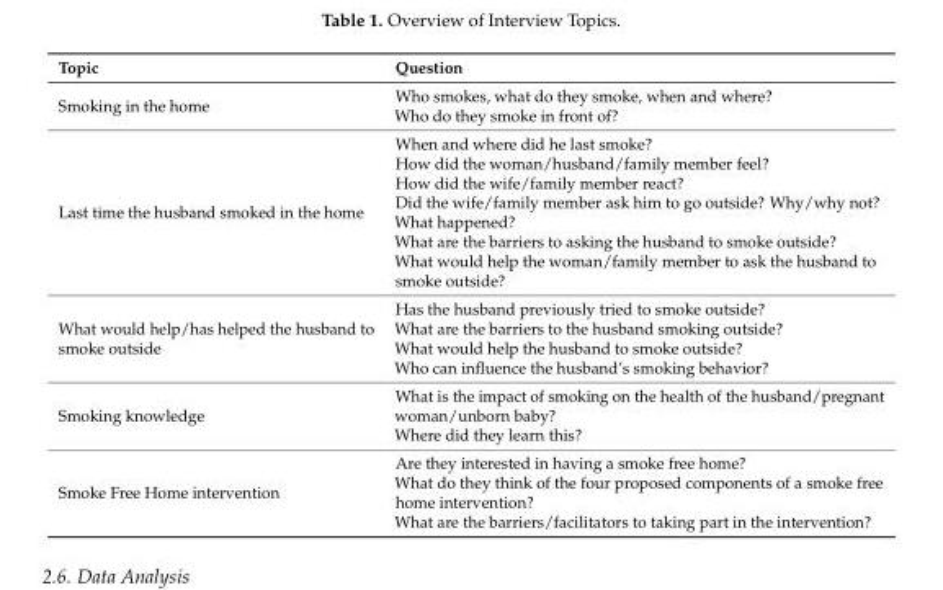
<table><thead><tr><td>Topic</td><td>Question</td></tr></thead><tbody><tr><td>Smoking in the home</td><td>Who smokes, what do they smoke, when and where? Who do they smoke in front of?</td></tr><tr><td>Last time the husband smoked in the home</td><td>When and where did he last smoke? How did the woman/husband/family member feel? How did the wife/family member react? Did the wife/family member ask him to go outside? Why/why not? What happened? What are the barriers to asking the husband to smoke outside? What would help the woman/family member to ask the husband to smoke outside?</td></tr><tr><td>What would help/has helped the husband to smoke outside</td><td>Has the husband previously tried to smoke outside? What are the barriers to the husband smoking outside? What would help the husband to smoke outside? Who can influence the husband’s smoking behavior?</td></tr><tr><td>Smoking knowledge</td><td>What is the impact of smoking on the health of the husband/pregnant woman/unborn baby? Where did they learn this?</td></tr><tr><td>Smoke Free Home intervention</td><td>Are they interested in having a smoke free home? What do they think of the four proposed components of a smoke free home intervention? What are the barriers/facilitators to taking part in the intervention?</td></tr></tbody></table>